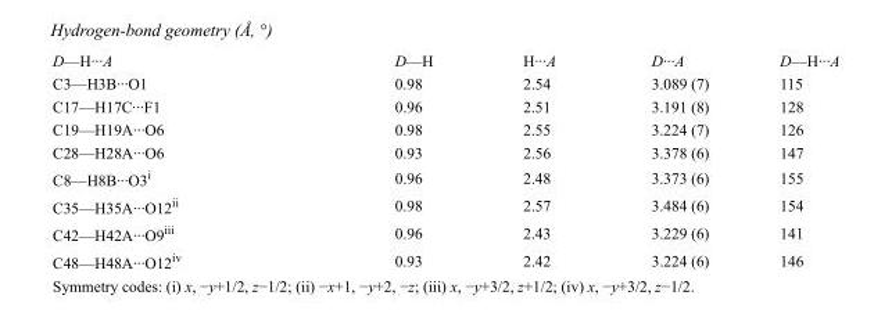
<table><tbody><tr><td>D—H···A</td><td>D—H</td><td>H···A</td><td>D···A</td><td>D—H···A</td></tr><tr><td>C3—H3B···O1</td><td>0.98</td><td>2.54</td><td>3.089 (7)</td><td>115</td></tr><tr><td>C17—H17C···F1</td><td>0.96</td><td>2.51</td><td>3.191 (8)</td><td>128</td></tr><tr><td>C19—H19A···O6</td><td>0.98</td><td>2.55</td><td>3.224 (7)</td><td>126</td></tr><tr><td>C28—H28A···O6</td><td>0.93</td><td>2.56</td><td>3.378 (6)</td><td>147</td></tr><tr><td>C8—H8B···O3<sup>i</sup></td><td>0.96</td><td>2.48</td><td>3.373 (6)</td><td>155</td></tr><tr><td>C35—H35A···O12<sup>ii</sup></td><td>0.98</td><td>2.57</td><td>3.484 (6)</td><td>154</td></tr><tr><td>C42—H42A···O9<sup>iii</sup></td><td>0.96</td><td>2.43</td><td>3.229 (6)</td><td>141</td></tr><tr><td>C48—H48A···O12<sup>iv</sup></td><td>0.93</td><td>2.42</td><td>3.224 (6)</td><td>146</td></tr></tbody></table>